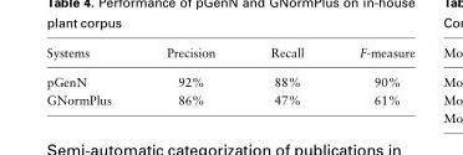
<table><thead><tr><td>Systems</td><td>Precision</td><td>Recall</td><td>F-measure</td></tr></thead><tbody><tr><td>pGenN</td><td>92%</td><td>88%</td><td>90%</td></tr><tr><td>GNormPlus</td><td>86%</td><td>47%</td><td>61%</td></tr></tbody></table>